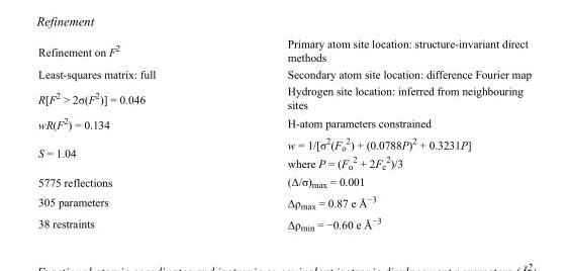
<table><tbody><tr><td>Refinement on F<sup>2</sup></td><td>Primary atom site location: structure-invariant direct methods</td></tr><tr><td>Least-squares matrix: full</td><td>Secondary atom site location: difference Fourier map</td></tr><tr><td>R[F<sup>2</sup> &gt; 2σ(F<sup>2</sup>)] = 0.046</td><td>Hydrogen site location: inferred from neighbouring sites</td></tr><tr><td>wR(F<sup>2</sup>) = 0.134</td><td>H-atom parameters constrained</td></tr><tr><td>S = 1.04</td><td>w = 1/[σ<sup>2</sup>(F<sub>o</sub> <sup>2</sup>) + (0.0788P)<sup>2</sup> + 0.3231P] where P = (F<sub>o</sub> <sup>2</sup> + 2F<sub>c</sub> <sup>2</sup>)/3</td></tr><tr><td>5775 reflections</td><td>(Δ/σ)<sub>max</sub> = 0.001</td></tr><tr><td>305 parameters</td><td>Δρ<sub>max</sub> = 0.87 e Å<sup>−3</sup></td></tr><tr><td>38 restraints</td><td>Δρ<sub>min</sub> = −0.60 e Å<sup>−3</sup></td></tr></tbody></table>